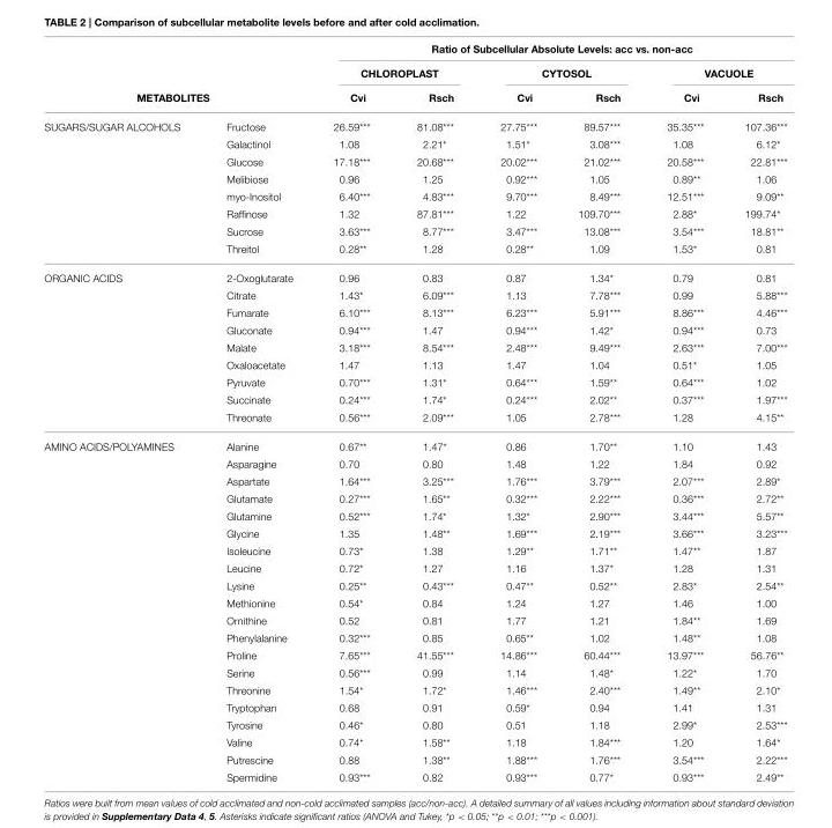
<table><thead><tr><td rowspan="2"></td><td rowspan="2"></td><td colspan="6">Ratio of Subcellular Absolute Levels: acc vs. non-acc</td></tr><tr><td colspan="2">CHLOROPLAST</td><td colspan="2">CYTOSOL</td><td colspan="2">VACUOLE</td></tr><tr><td colspan="2">METABOLITES</td><td>Cvi</td><td>Rsch</td><td>Cvi</td><td>Rsch</td><td>Cvi</td><td>Rsch</td></tr></thead><tbody><tr><td rowspan="8">SUGARS/SUGAR ALCOHOLS</td><td>Fructose</td><td>26.59***</td><td>81.08***</td><td>27.75***</td><td>89.57***</td><td>35.35***</td><td>107.36***</td></tr><tr><td>Galactinol</td><td>1.08</td><td>2.21*</td><td>1.51*</td><td>3.08***</td><td>1.08</td><td>6.12*</td></tr><tr><td>Glucose</td><td>17.18***</td><td>20.68***</td><td>20.02***</td><td>21.02***</td><td>20.58***</td><td>22.81***</td></tr><tr><td>Melibiose</td><td>0.96</td><td>1.25</td><td>0.92***</td><td>1.05</td><td>0.89**</td><td>1.06</td></tr><tr><td>myo-Inositol</td><td>6.40***</td><td>4.83***</td><td>9.70***</td><td>8.49***</td><td>12.51***</td><td>9.09**</td></tr><tr><td>Raffinose</td><td>1.32</td><td>87.81***</td><td>1.22</td><td>109.70***</td><td>2.88*</td><td>199.74*</td></tr><tr><td>Sucrose</td><td>3.63***</td><td>8.77***</td><td>3.47***</td><td>13.08***</td><td>3.54***</td><td>18.81**</td></tr><tr><td>Threitol</td><td>0.28**</td><td>1.28</td><td>0.28**</td><td>1.09</td><td>1.53*</td><td>0.81</td></tr><tr><td rowspan="9">ORGANIC ACIDS</td><td>2-Oxoglutarate</td><td>0.96</td><td>0.83</td><td>0.87</td><td>1.34*</td><td>0.79</td><td>0.81</td></tr><tr><td>Citrate</td><td>1.43*</td><td>6.09***</td><td>1.13</td><td>7.78***</td><td>0.99</td><td>5.88***</td></tr><tr><td>Fumarate</td><td>6.10***</td><td>8.13***</td><td>6.23***</td><td>5.91***</td><td>8.86***</td><td>4.46***</td></tr><tr><td>Gluconate</td><td>0.94***</td><td>1.47</td><td>0.94***</td><td>1.42*</td><td>0.94***</td><td>0.73</td></tr><tr><td>Malate</td><td>3.18***</td><td>8.54***</td><td>2.48***</td><td>9.49***</td><td>2.63***</td><td>7.00***</td></tr><tr><td>Oxaloacetate</td><td>1.47</td><td>1.13</td><td>1.47</td><td>1.04</td><td>0.51*</td><td>1.05</td></tr><tr><td>Pyruvate</td><td>0.70***</td><td>1.31*</td><td>0.64***</td><td>1.59**</td><td>0.64***</td><td>1.02</td></tr><tr><td>Succinate</td><td>0.24***</td><td>1.74*</td><td>0.24***</td><td>2.02**</td><td>0.37***</td><td>1.97***</td></tr><tr><td>Threonate</td><td>0.56***</td><td>2.09***</td><td>1.05</td><td>2.78***</td><td>1.28</td><td>4.15**</td></tr><tr><td rowspan="20">AMINO ACIDS/POLYAMINES</td><td>Alanine</td><td>0.67**</td><td>1.47*</td><td>0.86</td><td>1.70**</td><td>1.10</td><td>1.43</td></tr><tr><td>Asparagine</td><td>0.70</td><td>0.80</td><td>1.48</td><td>1.22</td><td>1.84</td><td>0.92</td></tr><tr><td>Aspartate</td><td>1.64***</td><td>3.25***</td><td>1.76***</td><td>3.79***</td><td>2.07***</td><td>2.89*</td></tr><tr><td>Glutamate</td><td>0.27***</td><td>1.65**</td><td>0.32***</td><td>2.22***</td><td>0.36***</td><td>2.72**</td></tr><tr><td>Glutamine</td><td>0.52***</td><td>1.74*</td><td>1.32*</td><td>2.90***</td><td>3.44***</td><td>5.57**</td></tr><tr><td>Glycine</td><td>1.35</td><td>1.48**</td><td>1.69***</td><td>2.19***</td><td>3.66***</td><td>3.23***</td></tr><tr><td>Isoleucine</td><td>0.73*</td><td>1.38</td><td>1.29**</td><td>1.71**</td><td>1.47**</td><td>1.87</td></tr><tr><td>Leucine</td><td>0.72*</td><td>1.27</td><td>1.16</td><td>1.37*</td><td>1.28</td><td>1.31</td></tr><tr><td>Lysine</td><td>0.25**</td><td>0.43***</td><td>0.47**</td><td>0.52**</td><td>2.83*</td><td>2.54**</td></tr><tr><td>Methionine</td><td>0.54*</td><td>0.84</td><td>1.24</td><td>1.27</td><td>1.46</td><td>1.00</td></tr><tr><td>Ornithine</td><td>0.52</td><td>0.81</td><td>1.77</td><td>1.21</td><td>1.84**</td><td>1.69</td></tr><tr><td>Phenylalanine</td><td>0.32***</td><td>0.85</td><td>0.65**</td><td>1.02</td><td>1.48**</td><td>1.08</td></tr><tr><td>Proline</td><td>7.65***</td><td>41.55***</td><td>14.86***</td><td>60.44***</td><td>13.97***</td><td>56.76**</td></tr><tr><td>Serine</td><td>0.56***</td><td>0.99</td><td>1.14</td><td>1.48*</td><td>1.22*</td><td>1.70</td></tr><tr><td>Threonine</td><td>1.54*</td><td>1.72*</td><td>1.46***</td><td>2.40***</td><td>1.49**</td><td>2.10*</td></tr><tr><td>Tryptophan</td><td>0.68</td><td>0.91</td><td>0.59*</td><td>0.94</td><td>1.41</td><td>1.31</td></tr><tr><td>Tyrosine</td><td>0.46*</td><td>0.80</td><td>0.51</td><td>1.18</td><td>2.99*</td><td>2.53***</td></tr><tr><td>Valine</td><td>0.74*</td><td>1.58**</td><td>1.18</td><td>1.84***</td><td>1.20</td><td>1.64*</td></tr><tr><td>Putrescine</td><td>0.88</td><td>1.38**</td><td>1.88***</td><td>1.76***</td><td>3.54***</td><td>2.22***</td></tr><tr><td>Spermidine</td><td>0.93***</td><td>0.82</td><td>0.93***</td><td>0.77*</td><td>0.93***</td><td>2.49**</td></tr></tbody></table>